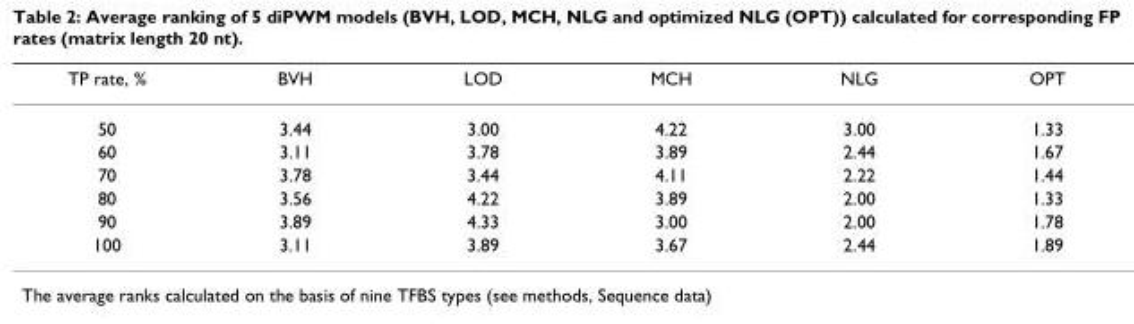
<table><thead><tr><td>TP rate, %</td><td>BVH</td><td>LOD</td><td>MCH</td><td>NLG</td><td>OPT</td></tr></thead><tbody><tr><td>50</td><td>3.44</td><td>3.00</td><td>4.22</td><td>3.00</td><td>1.33</td></tr><tr><td>60</td><td>3.11</td><td>3.78</td><td>3.89</td><td>2.44</td><td>1.67</td></tr><tr><td>70</td><td>3.78</td><td>3.44</td><td>4.11</td><td>2.22</td><td>1.44</td></tr><tr><td>80</td><td>3.56</td><td>4.22</td><td>3.89</td><td>2.00</td><td>1.33</td></tr><tr><td>90</td><td>3.89</td><td>4.33</td><td>3.00</td><td>2.00</td><td>1.78</td></tr><tr><td>100</td><td>3.11</td><td>3.89</td><td>3.67</td><td>2.44</td><td>1.89</td></tr></tbody></table>